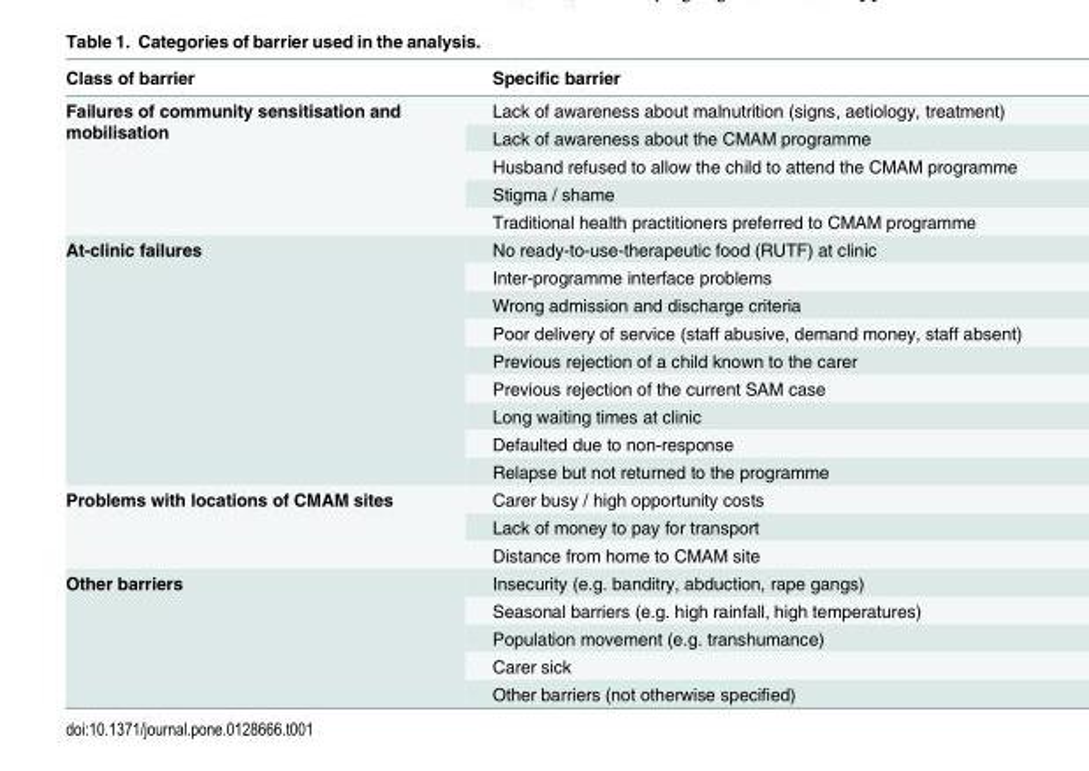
<table><thead><tr><td>Class of barrier</td><td>Specific barrier</td></tr></thead><tbody><tr><td rowspan="5">Failures of community sensitisation and mobilisation</td><td>Lack of awareness about malnutrition (signs, aetiology, treatment)</td></tr><tr><td>Lack of awareness about the CMAM programme</td></tr><tr><td>Husband refused to allow the child to attend the CMAM programme</td></tr><tr><td>Stigma / shame</td></tr><tr><td>Traditional health practitioners preferred to CMAM programme</td></tr><tr><td rowspan="9">At-clinic failures</td><td>No ready-to-use-therapeutic food (RUTF) at clinic</td></tr><tr><td>Inter-programme interface problems</td></tr><tr><td>Wrong admission and discharge criteria</td></tr><tr><td>Poor delivery of service (staff abusive, demand money, staff absent)</td></tr><tr><td>Previous rejection of a child known to the carer</td></tr><tr><td>Previous rejection of the current SAM case</td></tr><tr><td>Long waiting times at clinic</td></tr><tr><td>Defaulted due to non-response</td></tr><tr><td>Relapse but not returned to the programme</td></tr><tr><td rowspan="3">Problems with locations of CMAM sites</td><td>Carer busy / high opportunity costs</td></tr><tr><td>Lack of money to pay for transport</td></tr><tr><td>Distance from home to CMAM site</td></tr><tr><td rowspan="5">Other barriers</td><td>Insecurity (e.g. banditry, abduction, rape gangs)</td></tr><tr><td>Seasonal barriers (e.g. high rainfall, high temperatures)</td></tr><tr><td>Population movement (e.g. transhumance)</td></tr><tr><td>Carer sick</td></tr><tr><td>Other barriers (not otherwise specified)</td></tr></tbody></table>